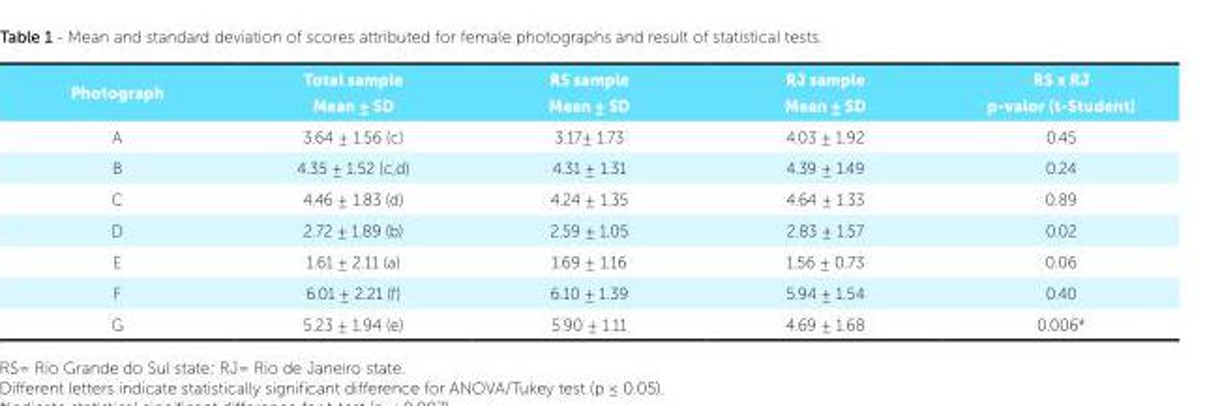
<table><thead><tr><td>Photograph</td><td>Total sample Mean ± SD</td><td>RS sample Mean ± SD</td><td>RJ sample Mean ± SD</td><td>RS x RJ p-valor (t-Student)</td></tr></thead><tbody><tr><td>A</td><td>3.64 ± 1.56 (c)</td><td>3.17± 1.73</td><td>4.03 ± 1.92</td><td>0.45</td></tr><tr><td>B</td><td>4.35 ± 1.52 (c,d)</td><td>4.31 ± 1.31</td><td>4.39 ± 1.49</td><td>0.24</td></tr><tr><td>C</td><td>4.46 ± 1.83 (d)</td><td>4.24 ± 1.35</td><td>4.64 ± 1.33</td><td>0.89</td></tr><tr><td>D</td><td>2.72 ± 1.89 (b)</td><td>2.59 ± 1.05</td><td>2.83 ± 1.57</td><td>0.02</td></tr><tr><td>E</td><td>1.61 ± 2.11 (a)</td><td>1.69 ± 1.16</td><td>1.56 ± 0.73</td><td>0.06</td></tr><tr><td>F</td><td>6.01 ± 2.21 (f)</td><td>6.10 ± 1.39</td><td>5.94 ± 1.54</td><td>0.40</td></tr><tr><td>G</td><td>5.23 ± 1.94 (e)</td><td>5.90 ± 1.11</td><td>4.69 ± 1.68</td><td>0.006*</td></tr></tbody></table>